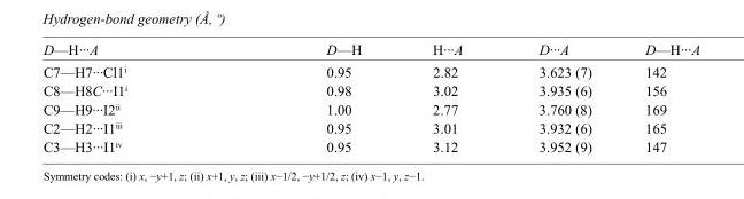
<table><tbody><tr><td>D—H···A</td><td>D—H</td><td>H···A</td><td>D···A</td><td>D—H···A</td></tr><tr><td>C7—H7···Cl1<sup>i</sup></td><td>0.95</td><td>2.82</td><td>3.623 (7)</td><td>142</td></tr><tr><td>C8—H8C···I1<sup>i</sup></td><td>0.98</td><td>3.02</td><td>3.935 (6)</td><td>156</td></tr><tr><td>C9—H9···I2<sup>ii</sup></td><td>1.00</td><td>2.77</td><td>3.760 (8)</td><td>169</td></tr><tr><td>C2—H2···I1<sup>iii</sup></td><td>0.95</td><td>3.01</td><td>3.932 (6)</td><td>165</td></tr><tr><td>C3—H3···I1<sup>iv</sup></td><td>0.95</td><td>3.12</td><td>3.952 (9)</td><td>147</td></tr></tbody></table>